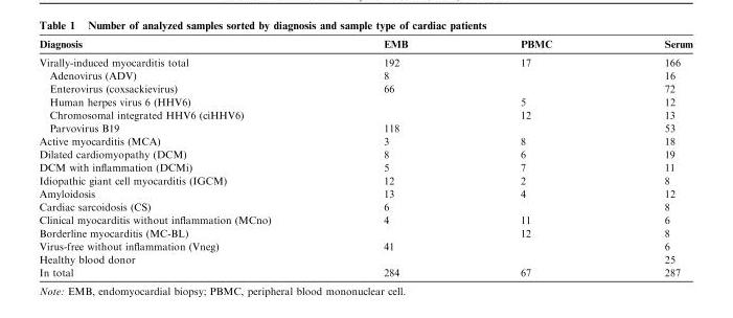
<table><thead><tr><td>Diagnosis</td><td>EMB</td><td>PBMC</td><td>Serum</td></tr></thead><tbody><tr><td>Virally-induced myocarditis total</td><td>192</td><td>17</td><td>166</td></tr><tr><td>Adenovirus (ADV)</td><td>8</td><td></td><td>16</td></tr><tr><td>Enterovirus (coxsackievirus)</td><td>66</td><td></td><td>72</td></tr><tr><td>Human herpes virus 6 (HHV6)</td><td></td><td>5</td><td>12</td></tr><tr><td>Chromosomal integrated HHV6 (ciHHV6)</td><td></td><td>12</td><td>13</td></tr><tr><td>Parvovirus B19</td><td>118</td><td></td><td>53</td></tr><tr><td>Active myocarditis (MCA)</td><td>3</td><td>8</td><td>18</td></tr><tr><td>Dilated cardiomyopathy (DCM)</td><td>8</td><td>6</td><td>19</td></tr><tr><td>DCM with inflammation (DCMi)</td><td>5</td><td>7</td><td>11</td></tr><tr><td>Idiopathic giant cell myocarditis (IGCM)</td><td>12</td><td>2</td><td>8</td></tr><tr><td>Amyloidosis</td><td>13</td><td>4</td><td>12</td></tr><tr><td>Cardiac sarcoidosis (CS)</td><td>6</td><td></td><td>8</td></tr><tr><td>Clinical myocarditis without inflammation (MCno)</td><td>4</td><td>11</td><td>6</td></tr><tr><td>Borderline myocarditis (MC-BL)</td><td></td><td>12</td><td>8</td></tr><tr><td>Virus-free without inflammation (Vneg)</td><td>41</td><td></td><td>6</td></tr><tr><td>Healthy blood donor</td><td></td><td></td><td>25</td></tr><tr><td>In total</td><td>284</td><td>67</td><td>287</td></tr></tbody></table>